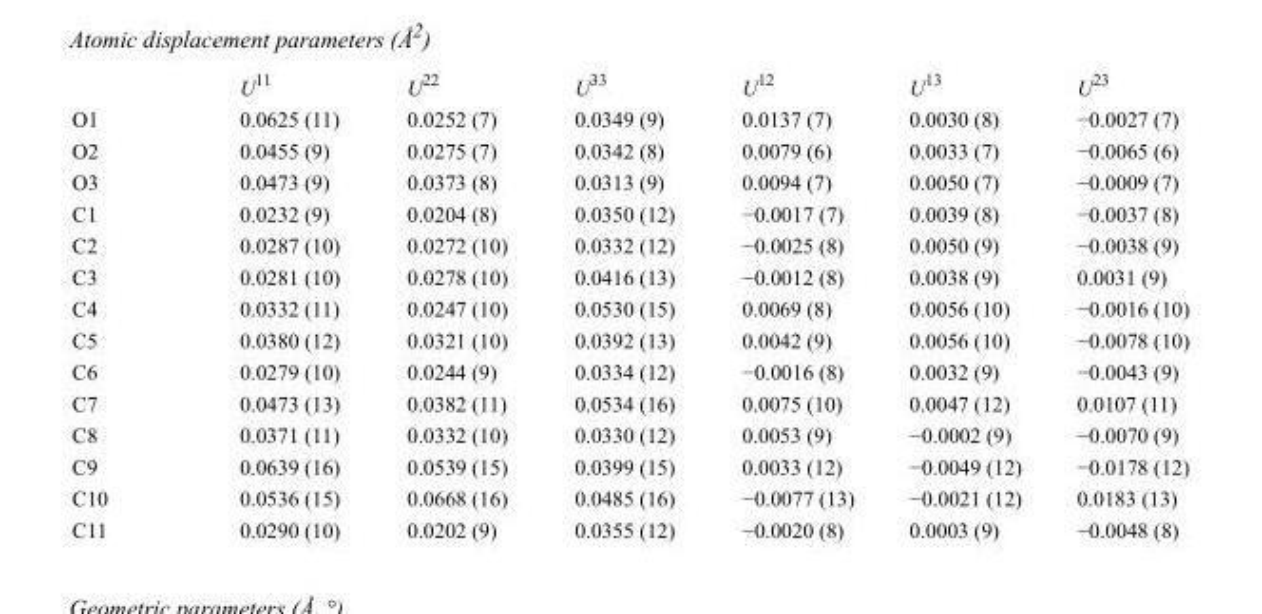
<table><thead><tr><td></td><td>U<sup>11</sup></td><td>U<sup>22</sup></td><td>U<sup>33</sup></td><td>U<sup>12</sup></td><td>U<sup>13</sup></td><td>U<sup>23</sup></td></tr></thead><tbody><tr><td>O1</td><td>0.0625 (11)</td><td>0.0252 (7)</td><td>0.0349 (9)</td><td>0.0137 (7)</td><td>0.0030 (8)</td><td>−0.0027 (7)</td></tr><tr><td>O2</td><td>0.0455 (9)</td><td>0.0275 (7)</td><td>0.0342 (8)</td><td>0.0079 (6)</td><td>0.0033 (7)</td><td>−0.0065 (6)</td></tr><tr><td>O3</td><td>0.0473 (9)</td><td>0.0373 (8)</td><td>0.0313 (9)</td><td>0.0094 (7)</td><td>0.0050 (7)</td><td>−0.0009 (7)</td></tr><tr><td>C1</td><td>0.0232 (9)</td><td>0.0204 (8)</td><td>0.0350 (12)</td><td>−0.0017 (7)</td><td>0.0039 (8)</td><td>−0.0037 (8)</td></tr><tr><td>C2</td><td>0.0287 (10)</td><td>0.0272 (10)</td><td>0.0332 (12)</td><td>−0.0025 (8)</td><td>0.0050 (9)</td><td>−0.0038 (9)</td></tr><tr><td>C3</td><td>0.0281 (10)</td><td>0.0278 (10)</td><td>0.0416 (13)</td><td>−0.0012 (8)</td><td>0.0038 (9)</td><td>0.0031 (9)</td></tr><tr><td>C4</td><td>0.0332 (11)</td><td>0.0247 (10)</td><td>0.0530 (15)</td><td>0.0069 (8)</td><td>0.0056 (10)</td><td>−0.0016 (10)</td></tr><tr><td>C5</td><td>0.0380 (12)</td><td>0.0321 (10)</td><td>0.0392 (13)</td><td>0.0042 (9)</td><td>0.0056 (10)</td><td>−0.0078 (10)</td></tr><tr><td>C6</td><td>0.0279 (10)</td><td>0.0244 (9)</td><td>0.0334 (12)</td><td>−0.0016 (8)</td><td>0.0032 (9)</td><td>−0.0043 (9)</td></tr><tr><td>C7</td><td>0.0473 (13)</td><td>0.0382 (11)</td><td>0.0534 (16)</td><td>0.0075 (10)</td><td>0.0047 (12)</td><td>0.0107 (11)</td></tr><tr><td>C8</td><td>0.0371 (11)</td><td>0.0332 (10)</td><td>0.0330 (12)</td><td>0.0053 (9)</td><td>−0.0002 (9)</td><td>−0.0070 (9)</td></tr><tr><td>C9</td><td>0.0639 (16)</td><td>0.0539 (15)</td><td>0.0399 (15)</td><td>0.0033 (12)</td><td>−0.0049 (12)</td><td>−0.0178 (12)</td></tr><tr><td>C10</td><td>0.0536 (15)</td><td>0.0668 (16)</td><td>0.0485 (16)</td><td>−0.0077 (13)</td><td>−0.0021 (12)</td><td>0.0183 (13)</td></tr><tr><td>C11</td><td>0.0290 (10)</td><td>0.0202 (9)</td><td>0.0355 (12)</td><td>−0.0020 (8)</td><td>0.0003 (9)</td><td>−0.0048 (8)</td></tr></tbody></table>